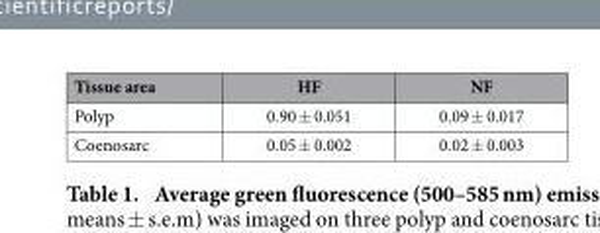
<table><thead><tr><td>Tissue area</td><td>HF</td><td>NF</td></tr></thead><tbody><tr><td>Polyp</td><td>0.90 ± 0.051</td><td>0.09 ± 0.017</td></tr><tr><td>Coenosarc</td><td>0.05 ± 0.002</td><td>0.02 ± 0.003</td></tr></tbody></table>